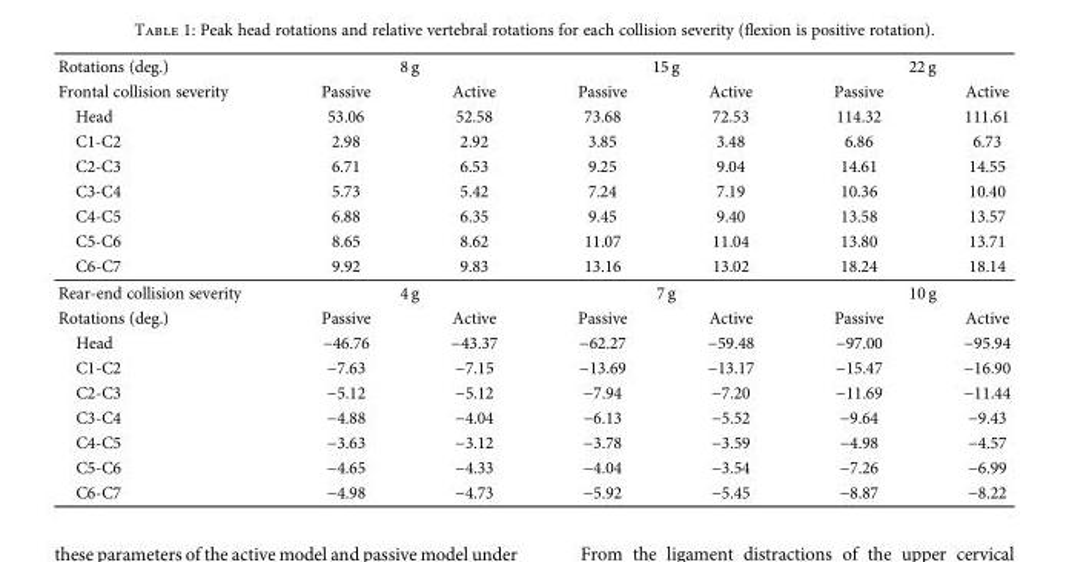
<table><tbody><tr><td>Rotations (deg.)</td><td colspan="2">8 g</td><td colspan="2">15 g</td><td colspan="2">22 g</td></tr><tr><td>Frontal collision severity</td><td>Passive</td><td>Active</td><td>Passive</td><td>Active</td><td>Passive</td><td>Active</td></tr><tr><td>Head</td><td>53.06</td><td>52.58</td><td>73.68</td><td>72.53</td><td>114.32</td><td>111.61</td></tr><tr><td>C1-C2</td><td>2.98</td><td>2.92</td><td>3.85</td><td>3.48</td><td>6.86</td><td>6.73</td></tr><tr><td>C2-C3</td><td>6.71</td><td>6.53</td><td>9.25</td><td>9.04</td><td>14.61</td><td>14.55</td></tr><tr><td>C3-C4</td><td>5.73</td><td>5.42</td><td>7.24</td><td>7.19</td><td>10.36</td><td>10.40</td></tr><tr><td>C4-C5</td><td>6.88</td><td>6.35</td><td>9.45</td><td>9.40</td><td>13.58</td><td>13.57</td></tr><tr><td>C5-C6</td><td>8.65</td><td>8.62</td><td>11.07</td><td>11.04</td><td>13.80</td><td>13.71</td></tr><tr><td>C6-C7</td><td>9.92</td><td>9.83</td><td>13.16</td><td>13.02</td><td>18.24</td><td>18.14</td></tr><tr><td>Rear-end collision severity</td><td colspan="2">4 g</td><td colspan="2">7 g</td><td colspan="2">10 g</td></tr><tr><td>Rotations (deg.)</td><td>Passive</td><td>Active</td><td>Passive</td><td>Active</td><td>Passive</td><td>Active</td></tr><tr><td>Head</td><td>−46.76</td><td>−43.37</td><td>−62.27</td><td>−59.48</td><td>−97.00</td><td>−95.94</td></tr><tr><td>C1-C2</td><td>−7.63</td><td>−7.15</td><td>−13.69</td><td>−13.17</td><td>−15.47</td><td>−16.90</td></tr><tr><td>C2-C3</td><td>−5.12</td><td>−5.12</td><td>−7.94</td><td>−7.20</td><td>−11.69</td><td>−11.44</td></tr><tr><td>C3-C4</td><td>−4.88</td><td>−4.04</td><td>−6.13</td><td>−5.52</td><td>−9.64</td><td>−9.43</td></tr><tr><td>C4-C5</td><td>−3.63</td><td>−3.12</td><td>−3.78</td><td>−3.59</td><td>−4.98</td><td>−4.57</td></tr><tr><td>C5-C6</td><td>−4.65</td><td>−4.33</td><td>−4.04</td><td>−3.54</td><td>−7.26</td><td>−6.99</td></tr><tr><td>C6-C7</td><td>−4.98</td><td>−4.73</td><td>−5.92</td><td>−5.45</td><td>−8.87</td><td>−8.22</td></tr></tbody></table>